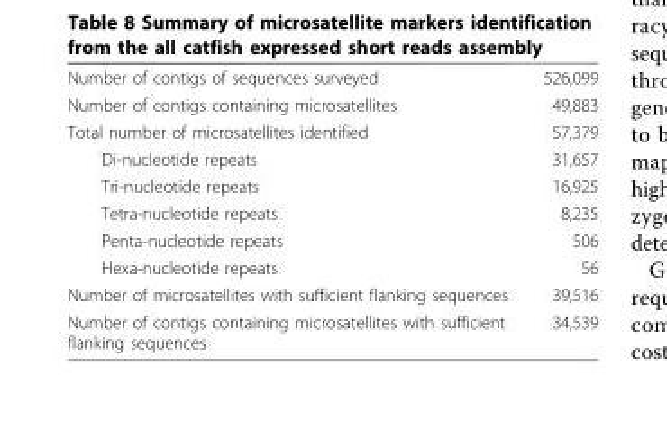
<table><tbody><tr><td>Number of contigs of sequences surveyed</td><td>526,099</td></tr><tr><td>Number of contigs containing microsatellites</td><td>49,883</td></tr><tr><td>Total number of microsatellites identified</td><td>57,379</td></tr><tr><td>Di-nucleotide repeats</td><td>31,657</td></tr><tr><td>Tri-nucleotide repeats</td><td>16,925</td></tr><tr><td>Tetra-nucleotide repeats</td><td>8,235</td></tr><tr><td>Penta-nucleotide repeats</td><td>506</td></tr><tr><td>Hexa-nucleotide repeats</td><td>56</td></tr><tr><td>Number of microsatellites with sufficient flanking sequences</td><td>39,516</td></tr><tr><td>Number of contigs containing microsatellites with sufficient flanking sequences</td><td>34,539</td></tr></tbody></table>